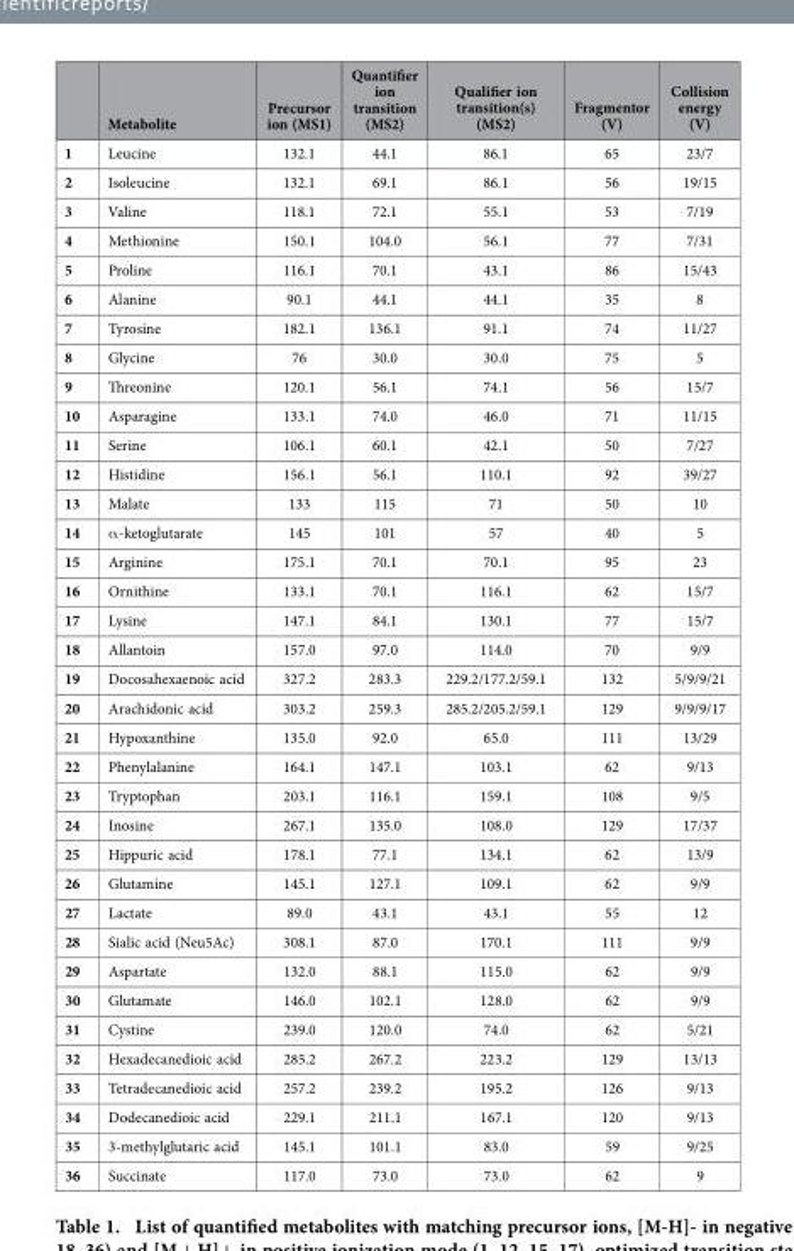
<table><thead><tr><td></td><td>Metabolite</td><td>Precursor ion (MS1)</td><td>Quantifier ion transition (MS2)</td><td>Qualifier ion transition(s) (MS2)</td><td>Fragmentor (V)</td><td>Collision energy (V)</td></tr></thead><tbody><tr><td>1</td><td>Leucine</td><td>132.1</td><td>44.1</td><td>86.1</td><td>65</td><td>23/7</td></tr><tr><td>2</td><td>Isoleucine</td><td>132.1</td><td>69.1</td><td>86.1</td><td>56</td><td>19/15</td></tr><tr><td>3</td><td>Valine</td><td>118.1</td><td>72.1</td><td>55.1</td><td>53</td><td>7/19</td></tr><tr><td>4</td><td>Methionine</td><td>150.1</td><td>104.0</td><td>56.1</td><td>77</td><td>7/31</td></tr><tr><td>5</td><td>Proline</td><td>116.1</td><td>70.1</td><td>43.1</td><td>86</td><td>15/43</td></tr><tr><td>6</td><td>Alanine</td><td>90.1</td><td>44.1</td><td>44.1</td><td>35</td><td>8</td></tr><tr><td>7</td><td>Tyrosine</td><td>182.1</td><td>136.1</td><td>91.1</td><td>74</td><td>11/27</td></tr><tr><td>8</td><td>Glycine</td><td>76</td><td>30.0</td><td>30.0</td><td>75</td><td>5</td></tr><tr><td>9</td><td>Threonine</td><td>120.1</td><td>56.1</td><td>74.1</td><td>56</td><td>15/7</td></tr><tr><td>10</td><td>Asparagine</td><td>133.1</td><td>74.0</td><td>46.0</td><td>71</td><td>11/15</td></tr><tr><td>11</td><td>Serine</td><td>106.1</td><td>60.1</td><td>42.1</td><td>50</td><td>7/27</td></tr><tr><td>12</td><td>Histidine</td><td>156.1</td><td>56.1</td><td>110.1</td><td>92</td><td>39/27</td></tr><tr><td>13</td><td>Malate</td><td>133</td><td>115</td><td>71</td><td>50</td><td>10</td></tr><tr><td>14</td><td>α -ketoglutarate</td><td>145</td><td>101</td><td>57</td><td>40</td><td>5</td></tr><tr><td>15</td><td>Arginine</td><td>175.1</td><td>70.1</td><td>70.1</td><td>95</td><td>23</td></tr><tr><td>16</td><td>Ornithine</td><td>133.1</td><td>70.1</td><td>116.1</td><td>62</td><td>15/7</td></tr><tr><td>17</td><td>Lysine</td><td>147.1</td><td>84.1</td><td>130.1</td><td>77</td><td>15/7</td></tr><tr><td>18</td><td>Allantoin</td><td>157.0</td><td>97.0</td><td>114.0</td><td>70</td><td>9/9</td></tr><tr><td>19</td><td>Docosahexaenoic acid</td><td>327.2</td><td>283.3</td><td>229.2/177.2/59.1</td><td>132</td><td>5/9/9/21</td></tr><tr><td>20</td><td>Arachidonic acid</td><td>303.2</td><td>259.3</td><td>285.2/205.2/59.1</td><td>129</td><td>9/9/9/17</td></tr><tr><td>21</td><td>Hypoxanthine</td><td>135.0</td><td>92.0</td><td>65.0</td><td>111</td><td>13/29</td></tr><tr><td>22</td><td>Phenylalanine</td><td>164.1</td><td>147.1</td><td>103.1</td><td>62</td><td>9/13</td></tr><tr><td>23</td><td>Tryptophan</td><td>203.1</td><td>116.1</td><td>159.1</td><td>108</td><td>9/5</td></tr><tr><td>24</td><td>Inosine</td><td>267.1</td><td>135.0</td><td>108.0</td><td>129</td><td>17/37</td></tr><tr><td>25</td><td>Hippuric acid</td><td>178.1</td><td>77.1</td><td>134.1</td><td>62</td><td>13/9</td></tr><tr><td>26</td><td>Glutamine</td><td>145.1</td><td>127.1</td><td>109.1</td><td>62</td><td>9/9</td></tr><tr><td>27</td><td>Lactate</td><td>89.0</td><td>43.1</td><td>43.1</td><td>55</td><td>12</td></tr><tr><td>28</td><td>Sialic acid (Neu5Ac)</td><td>308.1</td><td>87.0</td><td>170.1</td><td>111</td><td>9/9</td></tr><tr><td>29</td><td>Aspartate</td><td>132.0</td><td>88.1</td><td>115.0</td><td>62</td><td>9/9</td></tr><tr><td>30</td><td>Glutamate</td><td>146.0</td><td>102.1</td><td>128.0</td><td>62</td><td>9/9</td></tr><tr><td>31</td><td>Cystine</td><td>239.0</td><td>120.0</td><td>74.0</td><td>62</td><td>5/21</td></tr><tr><td>32</td><td>Hexadecanedioic acid</td><td>285.2</td><td>267.2</td><td>223.2</td><td>129</td><td>13/13</td></tr><tr><td>33</td><td>Tetradecanedioic acid</td><td>257.2</td><td>239.2</td><td>195.2</td><td>126</td><td>9/13</td></tr><tr><td>34</td><td>Dodecanedioic acid</td><td>229.1</td><td>211.1</td><td>167.1</td><td>120</td><td>9/13</td></tr><tr><td>35</td><td>3-methylglutaric acid</td><td>145.1</td><td>101.1</td><td>83.0</td><td>59</td><td>9/25</td></tr><tr><td>36</td><td>Succinate</td><td>117.0</td><td>73.0</td><td>73.0</td><td>62</td><td>9</td></tr></tbody></table>